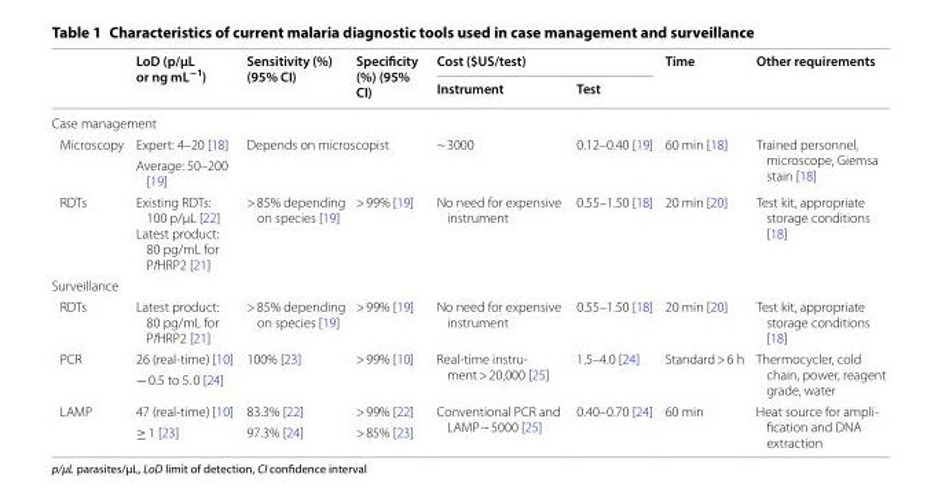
<table><thead><tr><td rowspan="2"></td><td rowspan="2">LoD (p/µL or ng mL<sup>−1</sup>)</td><td rowspan="2">Sensitivity (%) (95% CI)</td><td rowspan="2">Specificity (%) (95% CI)</td><td colspan="2">Cost ($US/test)</td><td rowspan="2">Time</td><td rowspan="2">Other requirements</td></tr><tr><td>Instrument</td><td>Test</td></tr></thead><tbody><tr><td colspan="8">Case management</td></tr><tr><td rowspan="2">Microscopy</td><td>Expert: 4–20 [18]</td><td rowspan="2" colspan="2">Depends on microscopist</td><td rowspan="2">~ 3000</td><td rowspan="2">0.12–0.40 [19]</td><td rowspan="2">60 min [18]</td><td rowspan="2">Trained personnel, microscope, Giemsa stain [18]</td></tr><tr><td>Average: 50–200 [19]</td></tr><tr><td>RDTs</td><td>Existing RDTs: 100 p/µL [22] Latest product: 80 pg/mL for PfHRP2 [21]</td><td>&gt; 85% depending on species [19]</td><td>&gt; 99% [19]</td><td>No need for expensive instrument</td><td>0.55–1.50 [18]</td><td>20 min [20]</td><td>Test kit, appropriate storage conditions [18]</td></tr><tr><td colspan="8">Surveillance</td></tr><tr><td>RDTs</td><td>Latest product: 80 pg/mL for PfHRP2 [21]</td><td>&gt; 85% depending on species [19]</td><td>&gt; 99% [19]</td><td>No need for expensive instrument</td><td>0.55–1.50 [18]</td><td>20 min [20]</td><td>Test kit, appropriate storage conditions [18]</td></tr><tr><td rowspan="2">PCR</td><td>26 (real‑time) [10]</td><td rowspan="2">100% [23]</td><td rowspan="2">&gt; 99% [10]</td><td rowspan="2">Real‑time instru‑ ment &gt; 20,000 [25]</td><td rowspan="2">1.5–4.0 [24]</td><td rowspan="2">Standard &gt; 6 h</td><td rowspan="2">Thermocycler, cold chain, power, reagent grade, water</td></tr><tr><td>− 0.5 to 5. 0 [24]</td></tr><tr><td rowspan="2">LAMP</td><td>47 (real‑time) [10]</td><td>83.3% [22]</td><td>&gt; 99% [22]</td><td rowspan="2">Conventional PCR and LAMP ~ 5000 [25]</td><td rowspan="2">0.40–0.70 [24]</td><td rowspan="2">60 min</td><td rowspan="2">Heat source for ampli‑ fication and DNA extraction</td></tr><tr><td>≥ 1 [23]</td><td>97.3% [24]</td><td>&gt; 85% [23]</td></tr></tbody></table>